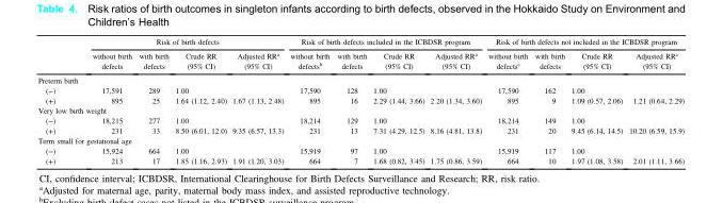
<table><thead><tr><td rowspan="2"></td><td colspan="4">Risk of birth defects</td><td colspan="4">Risk of birth defects included in the ICBDSR program</td><td colspan="4">Risk of birth defects not included in the ICBDSR program</td></tr><tr><td>without birth defects</td><td>with birth defects</td><td>Crude RR (95% CI)</td><td>Adjusted RR<sup>a</sup> (95% CI)</td><td>without birth defects<sup>b</sup></td><td>with birth defects</td><td>Crude RR (95% CI)</td><td>Adjusted RR<sup>a</sup> (95% CI)</td><td>without birth defects<sup>c</sup></td><td>with birth defects</td><td>Crude RR (95% CI)</td><td>Adjusted RR<sup>a</sup> (95% CI)</td></tr></thead><tbody><tr><td colspan="13">Preterm birth</td></tr><tr><td>(−)</td><td>17,591</td><td>289</td><td>1.00</td><td></td><td>17,590</td><td>128</td><td>1.00</td><td></td><td>17,590</td><td>162</td><td>1.00</td><td></td></tr><tr><td>(+)</td><td>895</td><td>25</td><td>1.64 (1.12, 2.40)</td><td>1.67 (1.13, 2.48)</td><td>895</td><td>16</td><td>2.29 (1.44, 3.66)</td><td>2.20 (1.34, 3.60)</td><td>895</td><td>9</td><td>1.09 (0.57, 2.06)</td><td>1.21 (0.64, 2.29)</td></tr><tr><td colspan="13">Very low birth weight</td></tr><tr><td>(−)</td><td>18,215</td><td>277</td><td>1.00</td><td></td><td>18,214</td><td>129</td><td>1.00</td><td></td><td>18,214</td><td>149</td><td>1.00</td><td></td></tr><tr><td>(+)</td><td>231</td><td>33</td><td>8.50 (6.01, 12.0)</td><td>9.35 (6.57, 13.3)</td><td>231</td><td>13</td><td>7.31 (4.29, 12.5)</td><td>8.16 (4.81, 13.8)</td><td>231</td><td>20</td><td>9.45 (6.14, 14.5)</td><td>10.20 (6.59, 15.9)</td></tr><tr><td colspan="13">Term small for gestational age</td></tr><tr><td>(−)</td><td>15,924</td><td>664</td><td>1.00</td><td></td><td>15,919</td><td>97</td><td>1.00</td><td></td><td>15,919</td><td>117</td><td>1.00</td><td></td></tr><tr><td>(+)</td><td>213</td><td>17</td><td>1.85 (1.16, 2.93)</td><td>1.91 (1.20, 3.03)</td><td>664</td><td>7</td><td>1.68 (0.82, 3.45)</td><td>1.75 (0.86, 3.59)</td><td>664</td><td>10</td><td>1.97 (1.08, 3.58)</td><td>2.01 (1.11, 3.66)</td></tr></tbody></table>